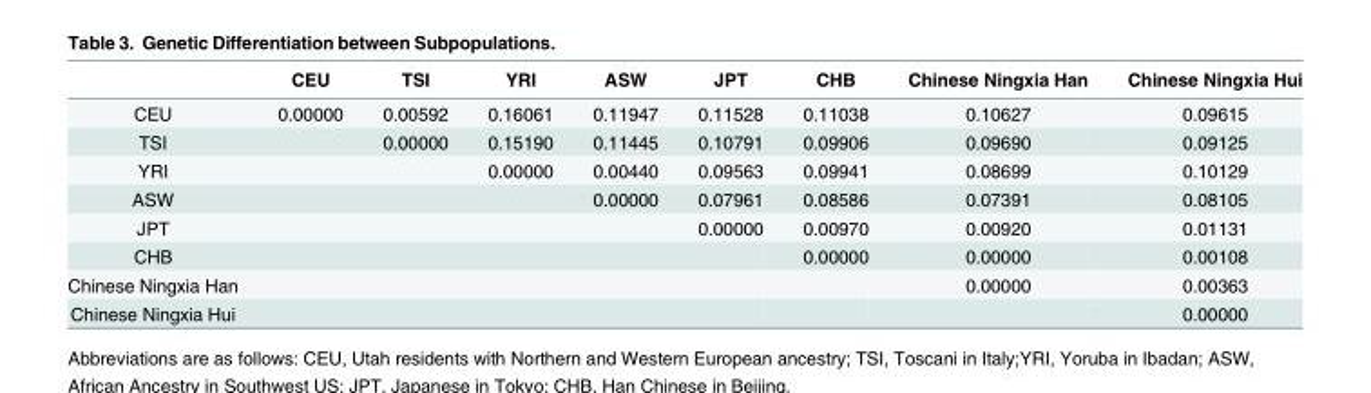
<table><thead><tr><td></td><td>CEU</td><td>TSI</td><td>YRI</td><td>ASW</td><td>JPT</td><td>CHB</td><td>Chinese Ningxia Han</td><td>Chinese Ningxia Hui</td></tr></thead><tbody><tr><td>CEU</td><td>0.00000</td><td>0.00592</td><td>0.16061</td><td>0.11947</td><td>0.11528</td><td>0.11038</td><td>0.10627</td><td>0.09615</td></tr><tr><td>TSI</td><td></td><td>0.00000</td><td>0.15190</td><td>0.11445</td><td>0.10791</td><td>0.09906</td><td>0.09690</td><td>0.09125</td></tr><tr><td>YRI</td><td></td><td></td><td>0.00000</td><td>0.00440</td><td>0.09563</td><td>0.09941</td><td>0.08699</td><td>0.10129</td></tr><tr><td>ASW</td><td></td><td></td><td></td><td>0.00000</td><td>0.07961</td><td>0.08586</td><td>0.07391</td><td>0.08105</td></tr><tr><td>JPT</td><td></td><td></td><td></td><td></td><td>0.00000</td><td>0.00970</td><td>0.00920</td><td>0.01131</td></tr><tr><td>CHB</td><td></td><td></td><td></td><td></td><td></td><td>0.00000</td><td>0.00000</td><td>0.00108</td></tr><tr><td>Chinese Ningxia Han</td><td></td><td></td><td></td><td></td><td></td><td></td><td>0.00000</td><td>0.00363</td></tr><tr><td>Chinese Ningxia Hui</td><td></td><td></td><td></td><td></td><td></td><td></td><td></td><td>0.00000</td></tr></tbody></table>